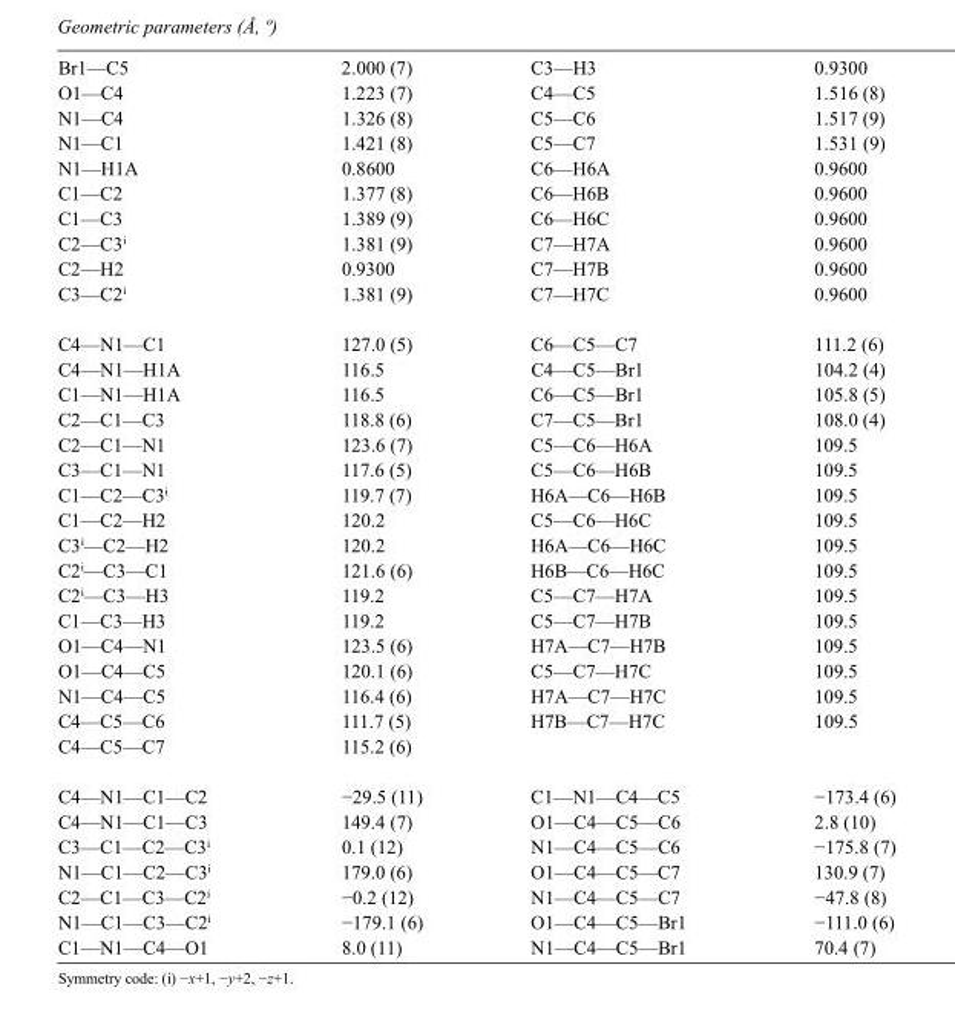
<table><tbody><tr><td>Br1—C5</td><td>2.000 (7)</td><td>C3—H3</td><td>0.9300</td></tr><tr><td>O1—C4</td><td>1.223 (7)</td><td>C4—C5</td><td>1.516 (8)</td></tr><tr><td>N1—C4</td><td>1.326 (8)</td><td>C5—C6</td><td>1.517 (9)</td></tr><tr><td>N1—C1</td><td>1.421 (8)</td><td>C5—C7</td><td>1.531 (9)</td></tr><tr><td>N1—H1A</td><td>0.8600</td><td>C6—H6A</td><td>0.9600</td></tr><tr><td>C1—C2</td><td>1.377 (8)</td><td>C6—H6B</td><td>0.9600</td></tr><tr><td>C1—C3</td><td>1.389 (9)</td><td>C6—H6C</td><td>0.9600</td></tr><tr><td>C2—C3<sup>i</sup></td><td>1.381 (9)</td><td>C7—H7A</td><td>0.9600</td></tr><tr><td>C2—H2</td><td>0.9300</td><td>C7—H7B</td><td>0.9600</td></tr><tr><td>C3—C2<sup>i</sup></td><td>1.381 (9)</td><td>C7—H7C</td><td>0.9600</td></tr><tr><td>C4—N1—C1</td><td>127.0 (5)</td><td>C6—C5—C7</td><td>111.2 (6)</td></tr><tr><td>C4—N1—H1A</td><td>116.5</td><td>C4—C5—Br1</td><td>104.2 (4)</td></tr><tr><td>C1—N1—H1A</td><td>116.5</td><td>C6—C5—Br1</td><td>105.8 (5)</td></tr><tr><td>C2—C1—C3</td><td>118.8 (6)</td><td>C7—C5—Br1</td><td>108.0 (4)</td></tr><tr><td>C2—C1—N1</td><td>123.6 (7)</td><td>C5—C6—H6A</td><td>109.5</td></tr><tr><td>C3—C1—N1</td><td>117.6 (5)</td><td>C5—C6—H6B</td><td>109.5</td></tr><tr><td>C1—C2—C3<sup>i</sup></td><td>119.7 (7)</td><td>H6A—C6—H6B</td><td>109.5</td></tr><tr><td>C1—C2—H2</td><td>120.2</td><td>C5—C6—H6C</td><td>109.5</td></tr><tr><td>C3<sup>i</sup>—C2—H2</td><td>120.2</td><td>H6A—C6—H6C</td><td>109.5</td></tr><tr><td>C2<sup>i</sup>—C3—C1</td><td>121.6 (6)</td><td>H6B—C6—H6C</td><td>109.5</td></tr><tr><td>C2<sup>i</sup>—C3—H3</td><td>119.2</td><td>C5—C7—H7A</td><td>109.5</td></tr><tr><td>C1—C3—H3</td><td>119.2</td><td>C5—C7—H7B</td><td>109.5</td></tr><tr><td>O1—C4—N1</td><td>123.5 (6)</td><td>H7A—C7—H7B</td><td>109.5</td></tr><tr><td>O1—C4—C5</td><td>120.1 (6)</td><td>C5—C7—H7C</td><td>109.5</td></tr><tr><td>N1—C4—C5</td><td>116.4 (6)</td><td>H7A—C7—H7C</td><td>109.5</td></tr><tr><td>C4—C5—C6</td><td>111.7 (5)</td><td>H7B—C7—H7C</td><td>109.5</td></tr><tr><td>C4—C5—C7</td><td>115.2 (6)</td><td></td><td></td></tr><tr><td>C4—N1—C1—C2</td><td>−29.5 (11)</td><td>C1—N1—C4—C5</td><td>−173.4 (6)</td></tr><tr><td>C4—N1—C1—C3</td><td>149.4 (7)</td><td>O1—C4—C5—C6</td><td>2.8 (10)</td></tr><tr><td>C3—C1—C2—C3<sup>i</sup></td><td>0.1 (12)</td><td>N1—C4—C5—C6</td><td>−175.8 (7)</td></tr><tr><td>N1—C1—C2—C3<sup>i</sup></td><td>179.0 (6)</td><td>O1—C4—C5—C7</td><td>130.9 (7)</td></tr><tr><td>C2—C1—C3—C2<sup>i</sup></td><td>−0.2 (12)</td><td>N1—C4—C5—C7</td><td>−47.8 (8)</td></tr><tr><td>N1—C1—C3—C2<sup>i</sup></td><td>−179.1 (6)</td><td>O1—C4—C5—Br1</td><td>−111.0 (6)</td></tr><tr><td>C1—N1—C4—O1</td><td>8.0 (11)</td><td>N1—C4—C5—Br1</td><td>70.4 (7)</td></tr></tbody></table>